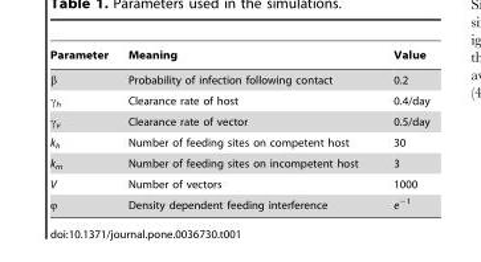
<table><thead><tr><td>Parameter</td><td>Meaning</td><td>Value</td></tr></thead><tbody><tr><td>β</td><td>Probability of infection following contact</td><td>0.2</td></tr><tr><td>γ<sub>h</sub></td><td>Clearance rate of host</td><td>0.4/day</td></tr><tr><td>γ<sub>v</sub></td><td>Clearance rate of vector</td><td>0.5/day</td></tr><tr><td>k<sub>h</sub></td><td>Number of feeding sites on competent host</td><td>30</td></tr><tr><td>k<sub>m</sub></td><td>Number of feeding sites on incompetent host</td><td>3</td></tr><tr><td>V</td><td>Number of vectors</td><td>1000</td></tr><tr><td>ϕ</td><td>Density dependent feeding interference</td><td>e<sup>−1</sup></td></tr></tbody></table>